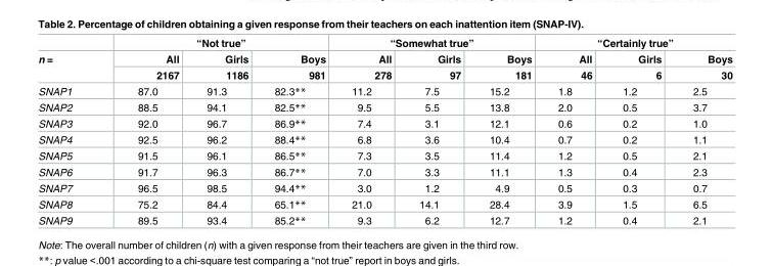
<table><thead><tr><td rowspan="3">n =</td><td colspan="3">“Not true”</td><td colspan="3">“Somewhat true”</td><td colspan="3">“Certainly true”</td></tr><tr><td rowspan="2">All 2167</td><td rowspan="2">Girls 1186</td><td rowspan="2">Boys 981</td><td rowspan="2">All 278</td><td rowspan="2">Girls 97</td><td rowspan="2">Boys 181</td><td rowspan="2">All 46</td><td rowspan="2">Girls 6</td><td rowspan="2">Boys 30</td></tr><tr></tr></thead><tbody><tr><td>SNAP1</td><td>87.0</td><td>91.3</td><td>82.3**</td><td>11.2</td><td>7.5</td><td>15.2</td><td>1.8</td><td>1.2</td><td>2.5</td></tr><tr><td>SNAP2</td><td>88.5</td><td>94.1</td><td>82.5**</td><td>9.5</td><td>5.5</td><td>13.8</td><td>2.0</td><td>0.5</td><td>3.7</td></tr><tr><td>SNAP3</td><td>92.0</td><td>96.7</td><td>86.9**</td><td>7.4</td><td>3.1</td><td>12.1</td><td>0.6</td><td>0.2</td><td>1.0</td></tr><tr><td>SNAP4</td><td>92.5</td><td>96.2</td><td>88.4**</td><td>6.8</td><td>3.6</td><td>10.4</td><td>0.7</td><td>0.2</td><td>1.1</td></tr><tr><td>SNAP5</td><td>91.5</td><td>96.1</td><td>86.5**</td><td>7.3</td><td>3.5</td><td>11.4</td><td>1.2</td><td>0.5</td><td>2.1</td></tr><tr><td>SNAP6</td><td>91.7</td><td>96.3</td><td>86.7**</td><td>7.0</td><td>3.3</td><td>11.1</td><td>1.3</td><td>0.4</td><td>2.3</td></tr><tr><td>SNAP7</td><td>96.5</td><td>98.5</td><td>94.4**</td><td>3.0</td><td>1.2</td><td>4.9</td><td>0.5</td><td>0.3</td><td>0.7</td></tr><tr><td>SNAP8</td><td>75.2</td><td>84.4</td><td>65.1**</td><td>21.0</td><td>14.1</td><td>28.4</td><td>3.9</td><td>1.5</td><td>6.5</td></tr><tr><td>SNAP9</td><td>89.5</td><td>93.4</td><td>85.2**</td><td>9.3</td><td>6.2</td><td>12.7</td><td>1.2</td><td>0.4</td><td>2.1</td></tr></tbody></table>